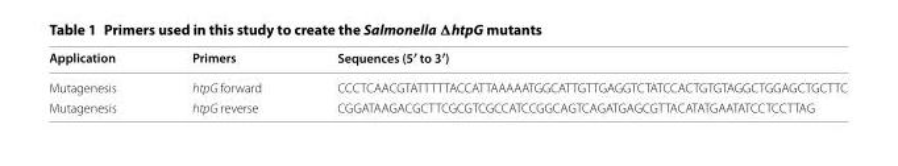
<table><thead><tr><td>Application</td><td>Primers</td><td>Sequences (5′ to 3′)</td></tr></thead><tbody><tr><td>Mutagenesis</td><td>htpG forward</td><td>CCCTCAACGTATTTTTACCATTAAAAATGGCATTGTTGAGGTCTATCCACTGTGTAGGCTGGAGCTGCTTC</td></tr><tr><td>Mutagenesis</td><td>htpG reverse</td><td>CGGATAAGACGCTTCGCGTCGCCATCCGGCAGTCAGATGAGCGTTACATATGAATATCCTCCTTAG</td></tr></tbody></table>